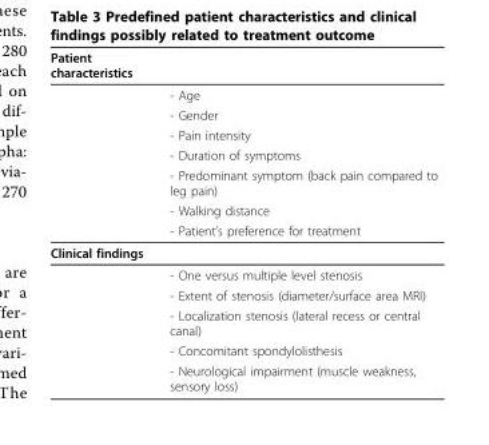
<table><thead><tr><td>Patient characteristics</td><td></td></tr></thead><tbody><tr><td></td><td>- Age</td></tr><tr><td></td><td>- Gender</td></tr><tr><td></td><td>- Pain intensity</td></tr><tr><td></td><td>- Duration of symptoms</td></tr><tr><td></td><td>- Predominant symptom (back pain compared to leg pain)</td></tr><tr><td></td><td>- Walking distance</td></tr><tr><td></td><td>- Patient’s preference for treatment</td></tr><tr><td colspan="2">Clinical findings</td></tr><tr><td></td><td>- One versus multiple level stenosis</td></tr><tr><td></td><td>- Extent of stenosis (diameter/surface area MRI)</td></tr><tr><td></td><td>- Localization stenosis (lateral recess or central canal)</td></tr><tr><td></td><td>- Concomitant spondylolisthesis</td></tr><tr><td></td><td>- Neurological impairment (muscle weakness, sensory loss)</td></tr></tbody></table>